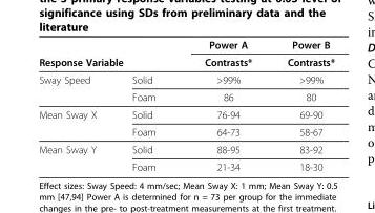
<table><thead><tr><td></td><td></td><td rowspan="2">Power A Contrasts*</td><td rowspan="2">Power B Contrasts*</td></tr><tr><td colspan="2">Response Variable</td></tr></thead><tbody><tr><td rowspan="2">Sway Speed</td><td>Solid</td><td>&gt;99%</td><td>&gt;99%</td></tr><tr><td>Foam</td><td>86</td><td>80</td></tr><tr><td rowspan="2">Mean Sway X</td><td>Solid</td><td>76-94</td><td>69-90</td></tr><tr><td>Foam</td><td>64-73</td><td>58-67</td></tr><tr><td rowspan="2">Mean Sway Y</td><td>Solid</td><td>88-95</td><td>83-92</td></tr><tr><td>Foam</td><td>21-34</td><td>18-30</td></tr></tbody></table>